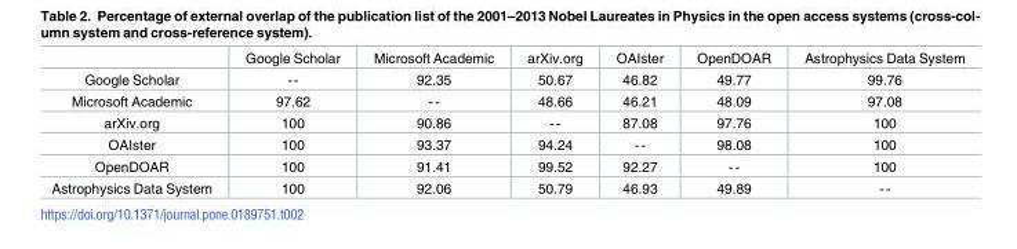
<table><thead><tr><td></td><td>Google Scholar</td><td>Microsoft Academic</td><td>arXiv.org</td><td>OAIster</td><td>OpenDOAR</td><td>Astrophysics Data System</td></tr></thead><tbody><tr><td>Google Scholar</td><td>--</td><td>92.35</td><td>50.67</td><td>46.82</td><td>49.77</td><td>99.76</td></tr><tr><td>Microsoft Academic</td><td>97.62</td><td>--</td><td>48.66</td><td>46.21</td><td>48.09</td><td>97.08</td></tr><tr><td>arXiv.org</td><td>100</td><td>90.86</td><td>--</td><td>87.08</td><td>97.76</td><td>100</td></tr><tr><td>OAIster</td><td>100</td><td>93.37</td><td>94.24</td><td>--</td><td>98.08</td><td>100</td></tr><tr><td>OpenDOAR</td><td>100</td><td>91.41</td><td>99.52</td><td>92.27</td><td>--</td><td>100</td></tr><tr><td>Astrophysics Data System</td><td>100</td><td>92.06</td><td>50.79</td><td>46.93</td><td>49.89</td><td>--</td></tr></tbody></table>